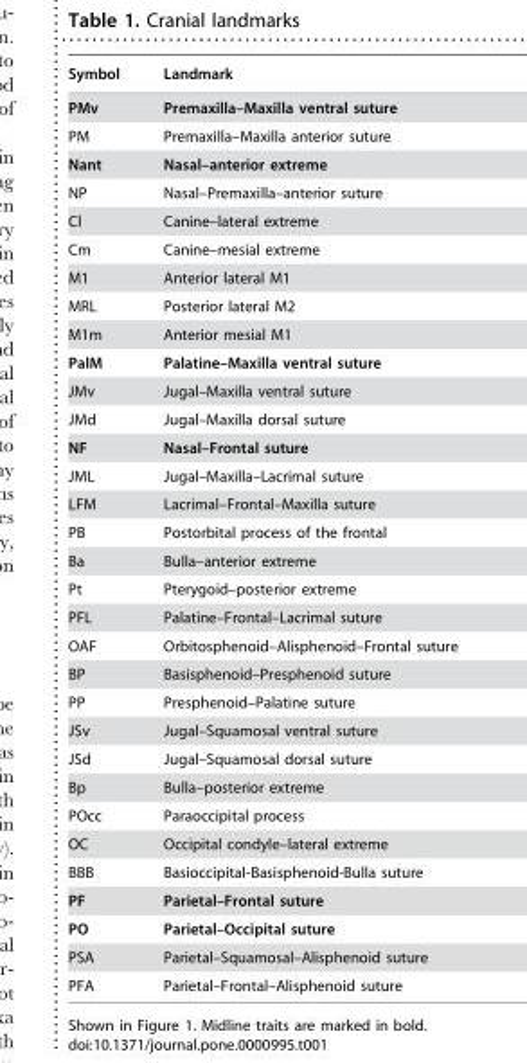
<table><thead><tr><td>Symbol</td><td>Landmark</td></tr></thead><tbody><tr><td>PMv</td><td>Premaxilla–Maxilla ventral suture</td></tr><tr><td>PM</td><td>Premaxilla–Maxilla anterior suture</td></tr><tr><td>Nant</td><td>Nasal–anterior extreme</td></tr><tr><td>NP</td><td>Nasal–Premaxilla–anterior suture</td></tr><tr><td>Cl</td><td>Canine–lateral extreme</td></tr><tr><td>Cm</td><td>Canine–mesial extreme</td></tr><tr><td>M1</td><td>Anterior lateral M1</td></tr><tr><td>MRL</td><td>Posterior lateral M2</td></tr><tr><td>M1m</td><td>Anterior mesial M1</td></tr><tr><td>PalM</td><td>Palatine–Maxilla ventral suture</td></tr><tr><td>JMv</td><td>Jugal–Maxilla ventral suture</td></tr><tr><td>JMd</td><td>Jugal–Maxilla dorsal suture</td></tr><tr><td>NF</td><td>Nasal–Frontal suture</td></tr><tr><td>JML</td><td>Jugal–Maxilla–Lacrimal suture</td></tr><tr><td>LFM</td><td>Lacrimal–Frontal–Maxilla suture</td></tr><tr><td>PB</td><td>Postorbital process of the frontal</td></tr><tr><td>Ba</td><td>Bulla–anterior extreme</td></tr><tr><td>Pt</td><td>Pterygoid–posterior extreme</td></tr><tr><td>PFL</td><td>Palatine–Frontal–Lacrimal suture</td></tr><tr><td>OAF</td><td>Orbitosphenoid–Alisphenoid–Frontal suture</td></tr><tr><td>BP</td><td>Basisphenoid–Presphenoid suture</td></tr><tr><td>PP</td><td>Presphenoid–Palatine suture</td></tr><tr><td>JSv</td><td>Jugal–Squamosal ventral suture</td></tr><tr><td>JSd</td><td>Jugal–Squamosal dorsal suture</td></tr><tr><td>Bp</td><td>Bulla–posterior extreme</td></tr><tr><td>POcc</td><td>Paraoccipital process</td></tr><tr><td>OC</td><td>Occipital condyle–lateral extreme</td></tr><tr><td>BBB</td><td>Basioccipital-Basisphenoid-Bulla suture</td></tr><tr><td>PF</td><td>Parietal–Frontal suture</td></tr><tr><td>PO</td><td>Parietal–Occipital suture</td></tr><tr><td>PSA</td><td>Parietal–Squamosal–Alisphenoid suture</td></tr><tr><td>PFA</td><td>Parietal–Frontal–Alisphenoid suture</td></tr></tbody></table>